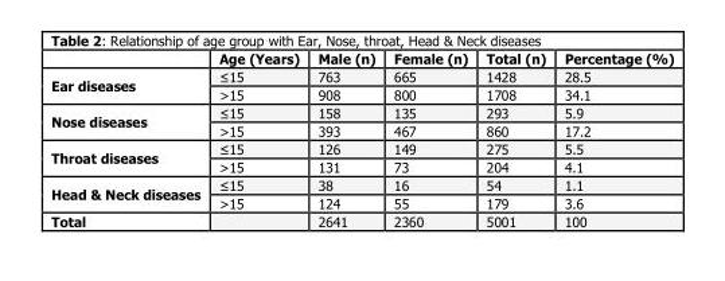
<table><thead><tr><td></td><td>Age (Years)</td><td>Male (n)</td><td>Female (n)</td><td>Total (n)</td><td>Percentage (%)</td></tr></thead><tbody><tr><td rowspan="2">Ear diseases</td><td>≤15</td><td>763</td><td>665</td><td>1428</td><td>28.5</td></tr><tr><td>&gt;15</td><td>908</td><td>800</td><td>1708</td><td>34.1</td></tr><tr><td rowspan="2">Nose diseases</td><td>≤15</td><td>158</td><td>135</td><td>293</td><td>5.9</td></tr><tr><td>&gt;15</td><td>393</td><td>467</td><td>860</td><td>17.2</td></tr><tr><td rowspan="2">Throat diseases</td><td>≤15</td><td>126</td><td>149</td><td>275</td><td>5.5</td></tr><tr><td>&gt;15</td><td>131</td><td>73</td><td>204</td><td>4.1</td></tr><tr><td rowspan="2">Head &amp; Neck diseases</td><td>≤15</td><td>38</td><td>16</td><td>54</td><td>1.1</td></tr><tr><td>&gt;15</td><td>124</td><td>55</td><td>179</td><td>3.6</td></tr><tr><td>Total</td><td></td><td>2641</td><td>2360</td><td>5001</td><td>100</td></tr></tbody></table>